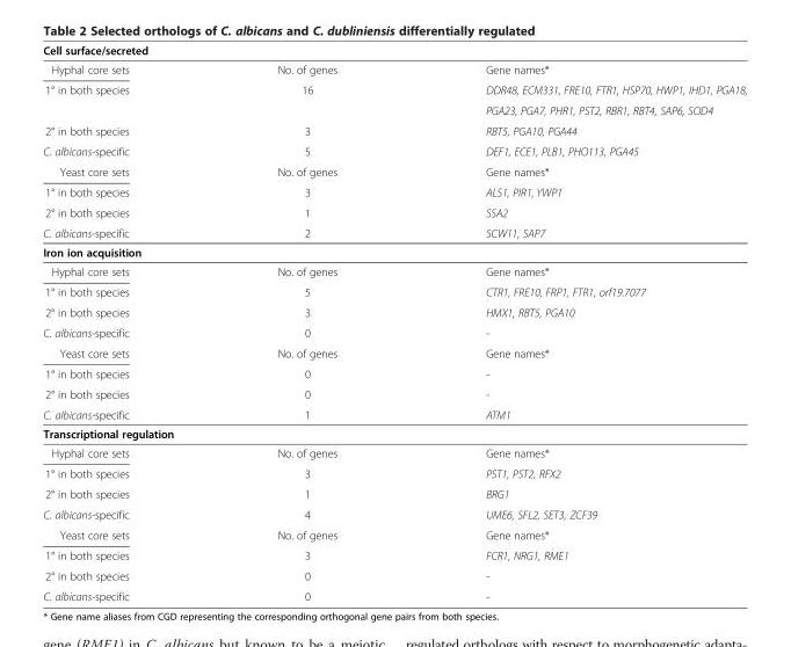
<table><thead><tr><td colspan="3">Cell surface/secreted</td></tr><tr><td>Hyphal core sets</td><td>No. of genes</td><td>Gene names*</td></tr></thead><tbody><tr><td rowspan="2">1° in both species</td><td>16</td><td>DDR48, ECM331, FRE10, FTR1, HSP70, HWP1, IHD1, PGA18,</td></tr><tr><td></td><td>PGA23, PGA7, PHR1, PST2, RBR1, RBT4, SAP6, SOD4</td></tr><tr><td>2° in both species</td><td>3</td><td>RBT5, PGA10, PGA44</td></tr><tr><td>C. albicans-specific</td><td>5</td><td>DEF1, ECE1, PLB1, PHO113, PGA45</td></tr><tr><td>Yeast core sets</td><td>No. of genes</td><td>Gene names*</td></tr><tr><td>1° in both species</td><td>3</td><td>ALS1, PIR1, YWP1</td></tr><tr><td>2° in both species</td><td>1</td><td>SSA2</td></tr><tr><td>C. albicans-specific</td><td>2</td><td>SCW11, SAP7</td></tr><tr><td colspan="3">Iron ion acquisition</td></tr><tr><td>Hyphal core sets</td><td>No. of genes</td><td>Gene names*</td></tr><tr><td>1° in both species</td><td>5</td><td>CTR1, FRE10, FRP1, FTR1, orf19.7077</td></tr><tr><td>2° in both species</td><td>3</td><td>HMX1, RBT5, PGA10</td></tr><tr><td>C. albicans-specific</td><td>0</td><td>-</td></tr><tr><td>Yeast core sets</td><td>No. of genes</td><td>Gene names*</td></tr><tr><td>1° in both species</td><td>0</td><td>-</td></tr><tr><td>2° in both species</td><td>0</td><td>-</td></tr><tr><td>C. albicans-specific</td><td>1</td><td>ATM1</td></tr><tr><td colspan="3">Transcriptional regulation</td></tr><tr><td>Hyphal core sets</td><td>No. of genes</td><td>Gene names*</td></tr><tr><td>1° in both species</td><td>3</td><td>PST1, PST2, RFX2</td></tr><tr><td>2° in both species</td><td>1</td><td>BRG1</td></tr><tr><td>C. albicans-specific</td><td>4</td><td>UME6, SFL2, SET3, ZCF39</td></tr><tr><td>Yeast core sets</td><td>No. of genes</td><td>Gene names*</td></tr><tr><td>1° in both species</td><td>3</td><td>FCR1, NRG1, RME1</td></tr><tr><td>2° in both species</td><td>0</td><td>-</td></tr><tr><td>C. albicans-specific</td><td>0</td><td>-</td></tr></tbody></table>